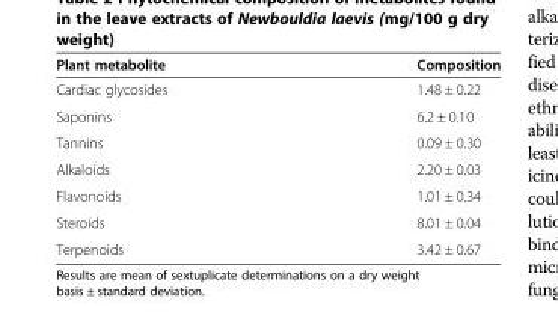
<table><thead><tr><td>Plant metabolite</td><td>Composition</td></tr></thead><tbody><tr><td>Cardiac glycosides</td><td>1.48 ± 0.22</td></tr><tr><td>Saponins</td><td>6.2 ± 0.10</td></tr><tr><td>Tannins</td><td>0.09 ± 0.30</td></tr><tr><td>Alkaloids</td><td>2.20 ± 0.03</td></tr><tr><td>Flavonoids</td><td>1.01 ± 0.34</td></tr><tr><td>Steroids</td><td>8.01 ± 0.04</td></tr><tr><td>Terpenoids</td><td>3.42 ± 0.67</td></tr></tbody></table>